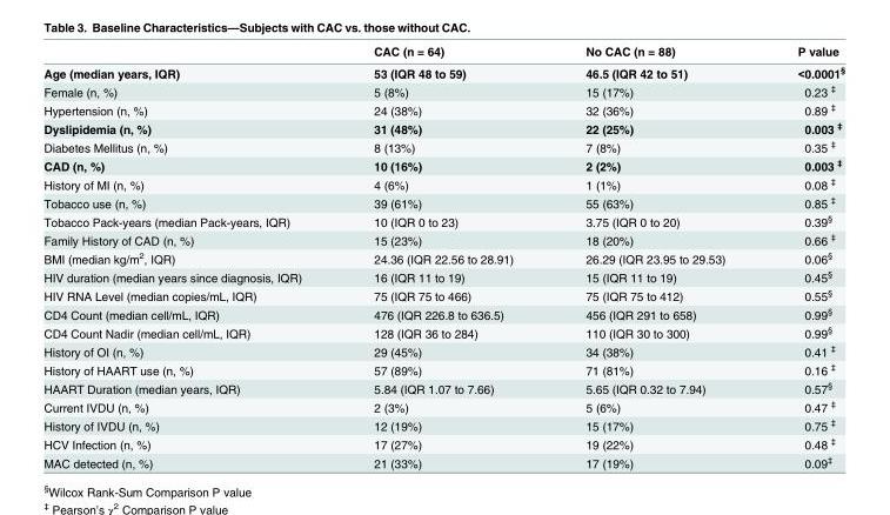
<table><thead><tr><td></td><td>CAC (n = 64)</td><td>No CAC (n = 88)</td><td>P value</td></tr></thead><tbody><tr><td>Age (median years, IQR)</td><td>53 (IQR 48 to 59)</td><td>46.5 (IQR 42 to 51)</td><td>&lt;0.0001<sup>§</sup></td></tr><tr><td>Female (n, %)</td><td>5 (8%)</td><td>15 (17%)</td><td>0.23 <sup>‡</sup></td></tr><tr><td>Hypertension (n, %)</td><td>24 (38%)</td><td>32 (36%)</td><td>0.89 <sup>‡</sup></td></tr><tr><td>Dyslipidemia (n, %)</td><td>31 (48%)</td><td>22 (25%)</td><td>0.003 <sup>‡</sup></td></tr><tr><td>Diabetes Mellitus (n, %)</td><td>8 (13%)</td><td>7 (8%)</td><td>0.35 <sup>‡</sup></td></tr><tr><td>CAD (n, %)</td><td>10 (16%)</td><td>2 (2%)</td><td>0.003 <sup>‡</sup></td></tr><tr><td>History of MI (n, %)</td><td>4 (6%)</td><td>1 (1%)</td><td>0.08 <sup>‡</sup></td></tr><tr><td>Tobacco use (n, %)</td><td>39 (61%)</td><td>55 (63%)</td><td>0.85 <sup>‡</sup></td></tr><tr><td>Tobacco Pack-years (median Pack-years, IQR)</td><td>10 (IQR 0 to 23)</td><td>3.75 (IQR 0 to 20)</td><td>0.39<sup>§</sup></td></tr><tr><td>Family History of CAD (n, %)</td><td>15 (23%)</td><td>18 (20%)</td><td>0.66 <sup>‡</sup></td></tr><tr><td>BMI (median kg/m<sup>2</sup>, IQR)</td><td>24.36 (IQR 22.56 to 28.91)</td><td>26.29 (IQR 23.95 to 29.53)</td><td>0.06<sup>§</sup></td></tr><tr><td>HIV duration (median years since diagnosis, IQR)</td><td>16 (IQR 11 to 19)</td><td>15 (IQR 11 to 19)</td><td>0.45<sup>§</sup></td></tr><tr><td>HIV RNA Level (median copies/mL, IQR)</td><td>75 (IQR 75 to 466)</td><td>75 (IQR 75 to 412)</td><td>0.55<sup>§</sup></td></tr><tr><td>CD4 Count (median cell/mL, IQR)</td><td>476 (IQR 226.8 to 636.5)</td><td>456 (IQR 291 to 658)</td><td>0.99<sup>§</sup></td></tr><tr><td>CD4 Count Nadir (median cell/mL, IQR)</td><td>128 (IQR 36 to 284)</td><td>110 (IQR 30 to 300)</td><td>0.99<sup>§</sup></td></tr><tr><td>History of OI (n, %)</td><td>29 (45%)</td><td>34 (38%)</td><td>0.41 <sup>‡</sup></td></tr><tr><td>History of HAART use (n, %)</td><td>57 (89%)</td><td>71 (81%)</td><td>0.16 <sup>‡</sup></td></tr><tr><td>HAART Duration (median years, IQR)</td><td>5.84 (IQR 1.07 to 7.66)</td><td>5.65 (IQR 0.32 to 7.94)</td><td>0.57<sup>§</sup></td></tr><tr><td>Current IVDU (n, %)</td><td>2 (3%)</td><td>5 (6%)</td><td>0.47 <sup>‡</sup></td></tr><tr><td>History of IVDU (n, %)</td><td>12 (19%)</td><td>15 (17%)</td><td>0.75 <sup>‡</sup></td></tr><tr><td>HCV Infection (n, %)</td><td>17 (27%)</td><td>19 (22%)</td><td>0.48 <sup>‡</sup></td></tr><tr><td>MAC detected (n, %)</td><td>21 (33%)</td><td>17 (19%)</td><td>0.09<sup>‡</sup></td></tr></tbody></table>